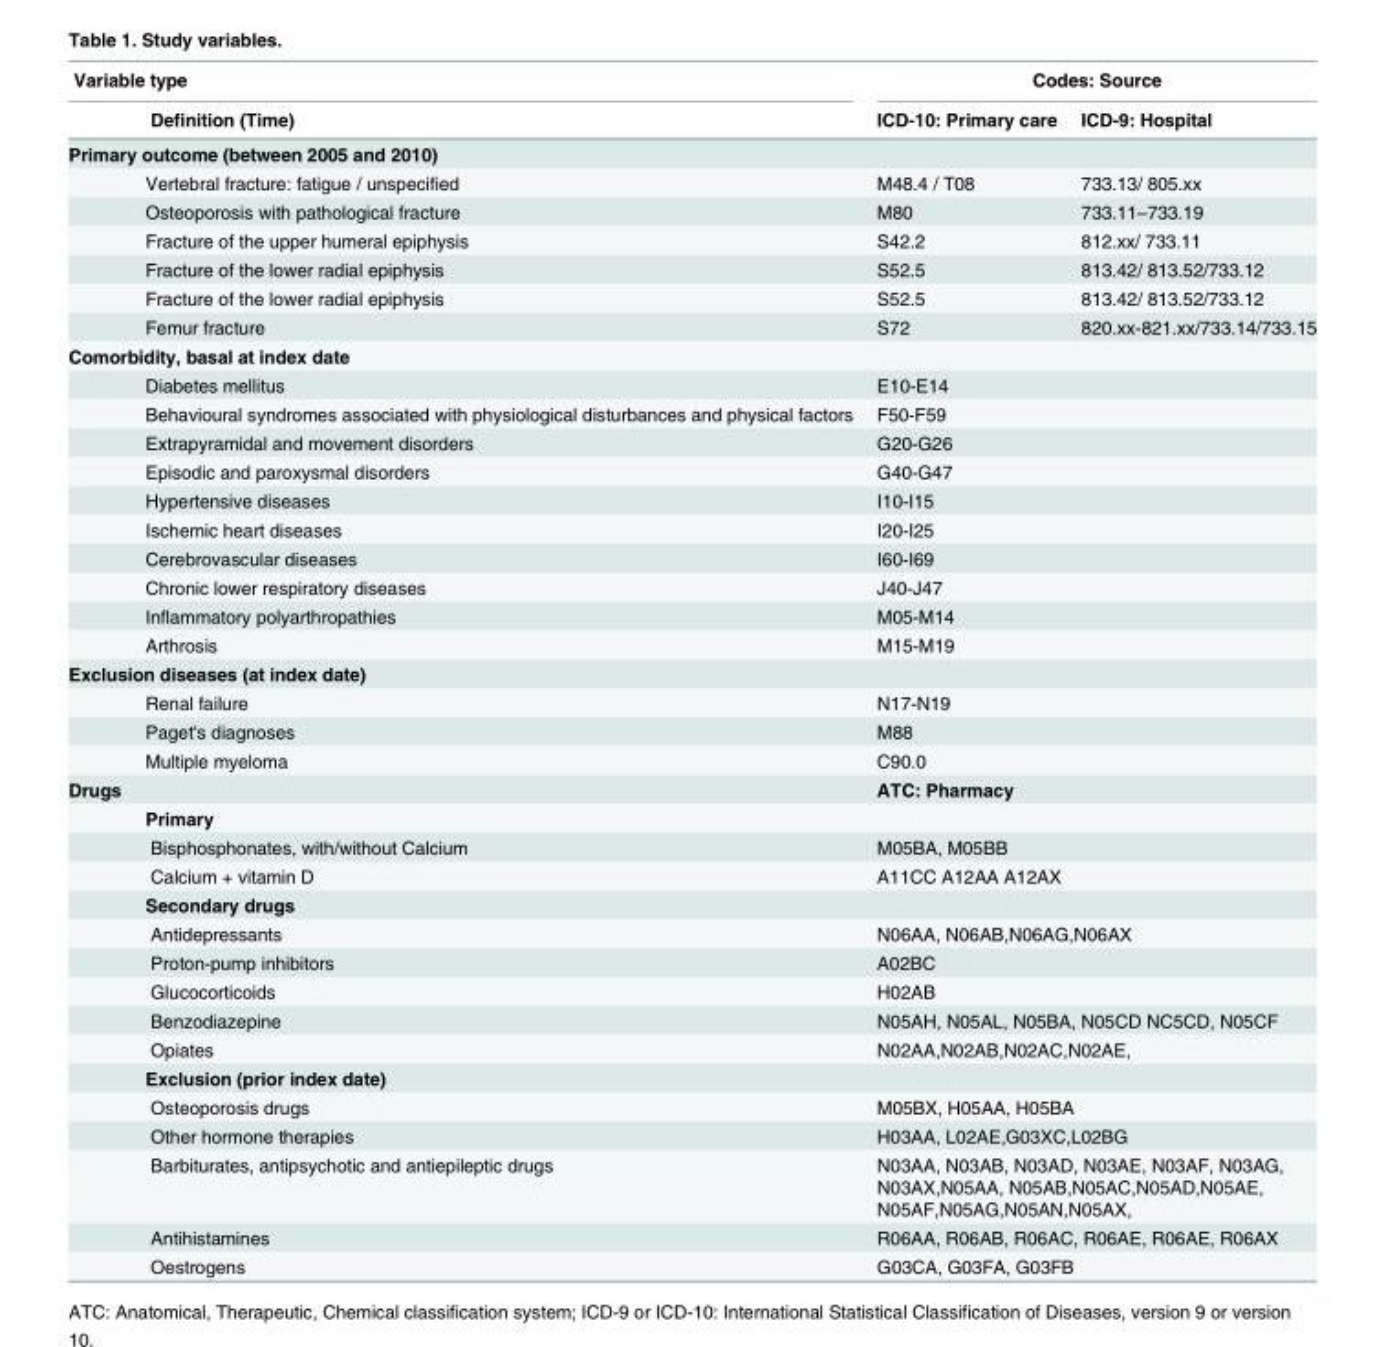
<table><thead><tr><td colspan="2">Variable type</td><td colspan="2">Codes: Source</td></tr><tr><td></td><td>Definition (Time)</td><td>ICD-10: Primary care</td><td>ICD-9: Hospital</td></tr></thead><tbody><tr><td colspan="4">Primary outcome (between 2005 and 2010)</td></tr><tr><td></td><td>Vertebral fracture: fatigue / unspecified</td><td>M48.4 / T08</td><td>733.13/ 805.xx</td></tr><tr><td></td><td>Osteoporosis with pathological fracture</td><td>M80</td><td>733.11–733.19</td></tr><tr><td></td><td>Fracture of the upper humeral epiphysis</td><td>S42.2</td><td>812.xx/ 733.11</td></tr><tr><td></td><td>Fracture of the lower radial epiphysis</td><td>S52.5</td><td>813.42/ 813.52/733.12</td></tr><tr><td></td><td>Fracture of the lower radial epiphysis</td><td>S52.5</td><td>813.42/ 813.52/733.12</td></tr><tr><td></td><td>Femur fracture</td><td>S72</td><td>820.xx-821.xx/733.14/733.15</td></tr><tr><td colspan="4">Comorbidity, basal at index date</td></tr><tr><td></td><td>Diabetes mellitus</td><td>E10-E14</td><td></td></tr><tr><td></td><td>Behavioural syndromes associated with physiological disturbances and physical factors</td><td>F50-F59</td><td></td></tr><tr><td></td><td>Extrapyramidal and movement disorders</td><td>G20-G26</td><td></td></tr><tr><td></td><td>Episodic and paroxysmal disorders</td><td>G40-G47</td><td></td></tr><tr><td></td><td>Hypertensive diseases</td><td>I10-I15</td><td></td></tr><tr><td></td><td>Ischemic heart diseases</td><td>I20-I25</td><td></td></tr><tr><td></td><td>Cerebrovascular diseases</td><td>I60-I69</td><td></td></tr><tr><td></td><td>Chronic lower respiratory diseases</td><td>J40-J47</td><td></td></tr><tr><td></td><td>Inflammatory polyarthropathies</td><td>M05-M14</td><td></td></tr><tr><td></td><td>Arthrosis</td><td>M15-M19</td><td></td></tr><tr><td colspan="4">Exclusion diseases (at index date)</td></tr><tr><td></td><td>Renal failure</td><td>N17-N19</td><td></td></tr><tr><td></td><td>Paget&#x27;s diagnoses</td><td>M88</td><td></td></tr><tr><td></td><td>Multiple myeloma</td><td>C90.0</td><td></td></tr><tr><td rowspan="16">Drugs</td><td></td><td colspan="2">ATC: Pharmacy</td></tr><tr><td>Primary</td><td></td><td></td></tr><tr><td>Bisphosphonates, with/without Calcium</td><td>M05BA, M05BB</td><td></td></tr><tr><td>Calcium + vitamin D</td><td colspan="2">A11CC A12AA A12AX</td></tr><tr><td>Secondary drugs</td><td colspan="2"></td></tr><tr><td>Antidepressants</td><td colspan="2">N06AA, N06AB,N06AG,N06AX</td></tr><tr><td>Proton-pump inhibitors</td><td colspan="2">A02BC</td></tr><tr><td>Glucocorticoids</td><td colspan="2">H02AB</td></tr><tr><td>Benzodiazepine</td><td colspan="2">N05AH, N05AL, N05BA, N05CD NC5CD, N05CF</td></tr><tr><td>Opiates</td><td colspan="2">N02AA,N02AB,N02AC,N02AE,</td></tr><tr><td>Exclusion (prior index date)</td><td colspan="2"></td></tr><tr><td>Osteoporosis drugs</td><td colspan="2">M05BX, H05AA, H05BA</td></tr><tr><td>Other hormone therapies</td><td colspan="2">H03AA, L02AE,G03XC,L02BG</td></tr><tr><td>Barbiturates, antipsychotic and antiepileptic drugs</td><td colspan="2">N03AA, N03AB, N03AD, N03AE, N03AF, N03AG, N03AX,N05AA, N05AB,N05AC,N05AD,N05AE, N05AF,N05AG,N05AN,N05AX,</td></tr><tr><td>Antihistamines</td><td colspan="2">R06AA, R06AB, R06AC, R06AE, R06AE, R06AX</td></tr><tr><td>Oestrogens</td><td colspan="2">G03CA, G03FA, G03FB</td></tr></tbody></table>